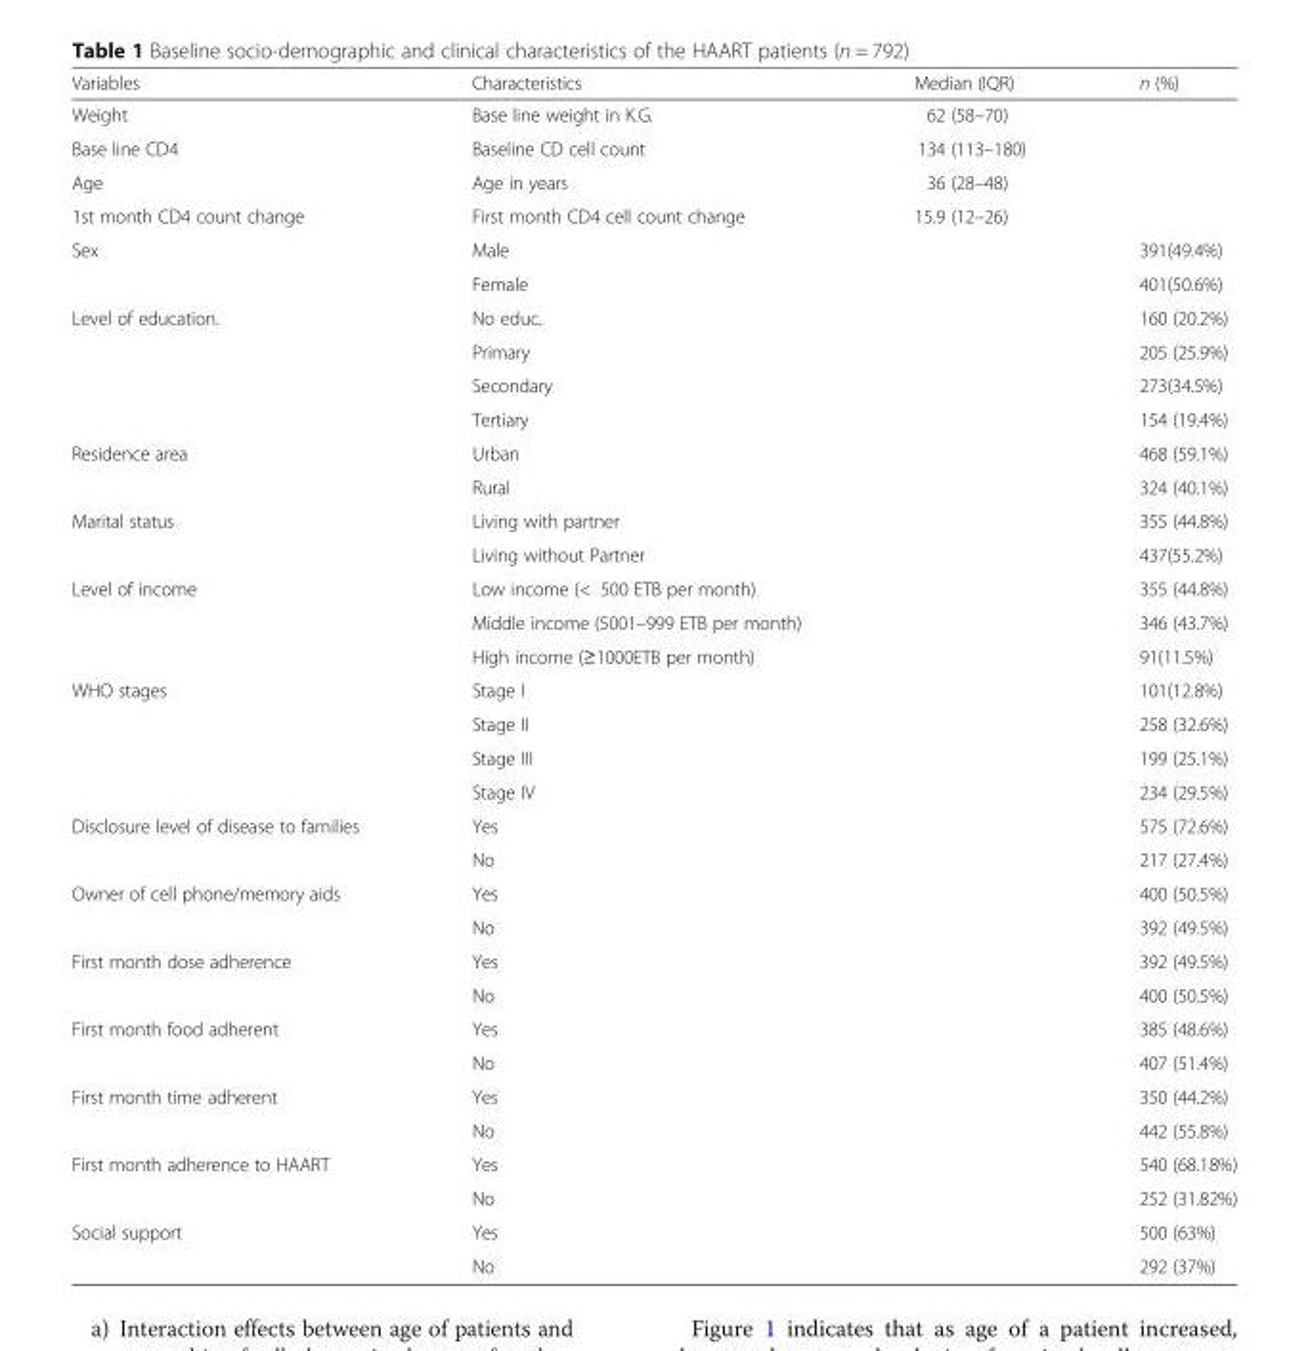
<table><thead><tr><td>Variables</td><td>Characteristics</td><td>Median (IQR)</td><td>n (%)</td></tr></thead><tbody><tr><td>Weight</td><td>Base line weight in K.G.</td><td>62 (58–70)</td><td></td></tr><tr><td>Base line CD4</td><td>Baseline CD cell count</td><td>134 (113–180)</td><td></td></tr><tr><td>Age</td><td>Age in years</td><td>36 (28–48)</td><td></td></tr><tr><td>1st month CD4 count change</td><td>First month CD4 cell count change</td><td>15.9 (12–26)</td><td></td></tr><tr><td rowspan="2">Sex</td><td>Male</td><td></td><td>391(49.4%)</td></tr><tr><td>Female</td><td></td><td>401(50.6%)</td></tr><tr><td rowspan="4">Level of education.</td><td>No educ.</td><td></td><td>160 (20.2%)</td></tr><tr><td>Primary</td><td></td><td>205 (25.9%)</td></tr><tr><td>Secondary</td><td></td><td>273(34.5%)</td></tr><tr><td>Tertiary</td><td></td><td>154 (19.4%)</td></tr><tr><td rowspan="2">Residence area</td><td>Urban</td><td></td><td>468 (59.1%)</td></tr><tr><td>Rural</td><td></td><td>324 (40.1%)</td></tr><tr><td rowspan="2">Marital status</td><td>Living with partner</td><td></td><td>355 (44.8%)</td></tr><tr><td>Living without Partner</td><td></td><td>437(55.2%)</td></tr><tr><td rowspan="3">Level of income</td><td>Low income (&lt; 500 ETB per month)</td><td></td><td>355 (44.8%)</td></tr><tr><td>Middle income (5001–999 ETB per month)</td><td></td><td>346 (43.7%)</td></tr><tr><td>High income (≥1000ETB per month)</td><td></td><td>91(11.5%)</td></tr><tr><td rowspan="4">WHO stages</td><td>Stage I</td><td></td><td>101(12.8%)</td></tr><tr><td>Stage II</td><td></td><td>258 (32.6%)</td></tr><tr><td>Stage III</td><td></td><td>199 (25.1%)</td></tr><tr><td>Stage IV</td><td></td><td>234 (29.5%)</td></tr><tr><td rowspan="2">Disclosure level of disease to families</td><td>Yes</td><td></td><td>575 (72.6%)</td></tr><tr><td>No</td><td></td><td>217 (27.4%)</td></tr><tr><td rowspan="2">Owner of cell phone/memory aids</td><td>Yes</td><td></td><td>400 (50.5%)</td></tr><tr><td>No</td><td></td><td>392 (49.5%)</td></tr><tr><td rowspan="2">First month dose adherence</td><td>Yes</td><td></td><td>392 (49.5%)</td></tr><tr><td>No</td><td></td><td>400 (50.5%)</td></tr><tr><td rowspan="2">First month food adherent</td><td>Yes</td><td></td><td>385 (48.6%)</td></tr><tr><td>No</td><td></td><td>407 (51.4%)</td></tr><tr><td rowspan="2">First month time adherent</td><td>Yes</td><td></td><td>350 (44.2%)</td></tr><tr><td>No</td><td></td><td>442 (55.8%)</td></tr><tr><td rowspan="2">First month adherence to HAART</td><td>Yes</td><td></td><td>540 (68.18%)</td></tr><tr><td>No</td><td></td><td>252 (31.82%)</td></tr><tr><td rowspan="2">Social support</td><td>Yes</td><td></td><td>500 (63%)</td></tr><tr><td>No</td><td></td><td>292 (37%)</td></tr></tbody></table>